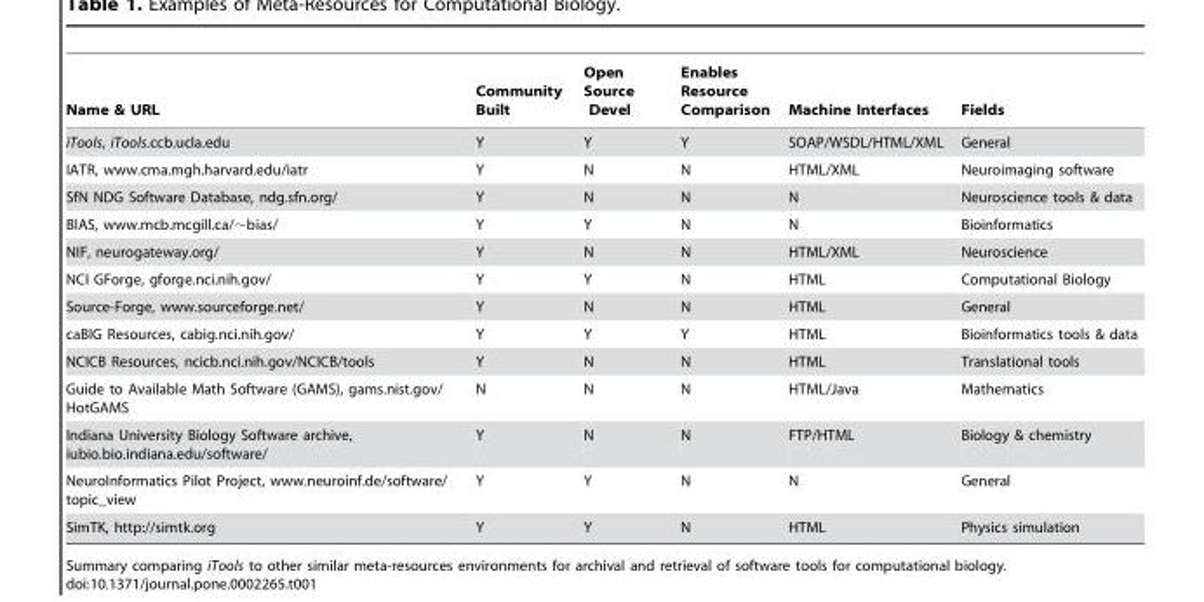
<table><thead><tr><td>Name &amp; URL</td><td>Community Built</td><td>Open Source Devel</td><td>Enables Resource Comparison</td><td>Machine Interfaces</td><td>Fields</td></tr></thead><tbody><tr><td>iTools, iTools.ccb.ucla.edu</td><td>Y</td><td>Y</td><td>Y</td><td>SOAP/WSDL/HTML/XML</td><td>General</td></tr><tr><td>IATR, www.cma.mgh.harvard.edu/iatr</td><td>Y</td><td>N</td><td>N</td><td>HTML/XML</td><td>Neuroimaging software</td></tr><tr><td>SfN NDG Software Database, ndg.sfn.org/</td><td>Y</td><td>N</td><td>N</td><td>N</td><td>Neuroscience tools &amp; data</td></tr><tr><td>BIAS, www.mcb.mcgill.ca/,bias/</td><td>Y</td><td>Y</td><td>N</td><td>N</td><td>Bioinformatics</td></tr><tr><td>NIF, neurogateway.org/</td><td>Y</td><td>N</td><td>N</td><td>HTML/XML</td><td>Neuroscience</td></tr><tr><td>NCI GForge, gforge.nci.nih.gov/</td><td>Y</td><td>Y</td><td>N</td><td>HTML</td><td>Computational Biology</td></tr><tr><td>Source-Forge, www.sourceforge.net/</td><td>Y</td><td>N</td><td>N</td><td>HTML</td><td>General</td></tr><tr><td>caBIG Resources, cabig.nci.nih.gov/</td><td>Y</td><td>Y</td><td>Y</td><td>HTML</td><td>Bioinformatics tools &amp; data</td></tr><tr><td>NCICB Resources, ncicb.nci.nih.gov/NCICB/tools</td><td>Y</td><td>N</td><td>N</td><td>HTML</td><td>Translational tools</td></tr><tr><td>Guide to Available Math Software (GAMS), gams.nist.gov/ HotGAMS</td><td>N</td><td>N</td><td>N</td><td>HTML/Java</td><td>Mathematics</td></tr><tr><td>Indiana University Biology Software archive, iubio.bio.indiana.edu/software/</td><td>Y</td><td>N</td><td>N</td><td>FTP/HTML</td><td>Biology &amp; chemistry</td></tr><tr><td>NeuroInformatics Pilot Project, www.neuroinf.de/software/ topic_view</td><td>Y</td><td>Y</td><td>N</td><td>N</td><td>General</td></tr><tr><td>SimTK, http://simtk.org</td><td>Y</td><td>Y</td><td>N</td><td>HTML</td><td>Physics simulation</td></tr></tbody></table>